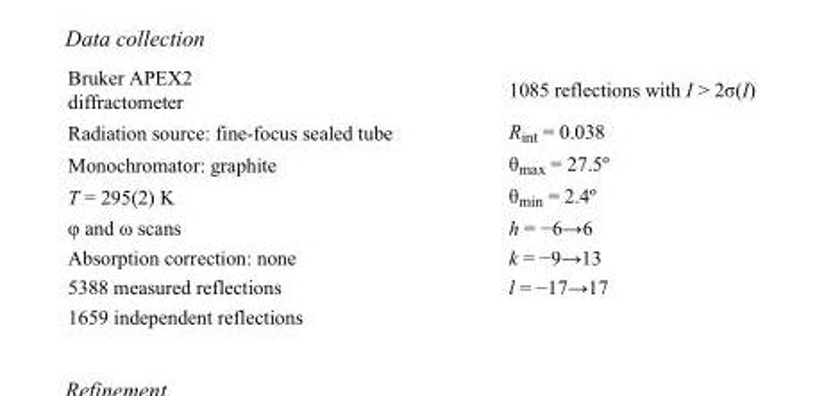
<table><tbody><tr><td>Bruker APEX2 diffractometer</td><td>1085 reflections with I &gt; 2σ(I)</td></tr><tr><td>Radiation source: fine-focus sealed tube</td><td>R<sub>int</sub> = 0.038</td></tr><tr><td>Monochromator: graphite</td><td>θ<sub>max</sub> = 27.5º</td></tr><tr><td>T = 295(2) K</td><td>θ<sub>min</sub> = 2.4º</td></tr><tr><td>φ and ω scans</td><td>h = −6→6</td></tr><tr><td>Absorption correction: none</td><td>k = −9→13</td></tr><tr><td>5388 measured reflections</td><td>l = −17→17</td></tr><tr><td>1659 independent reflections</td><td></td></tr></tbody></table>